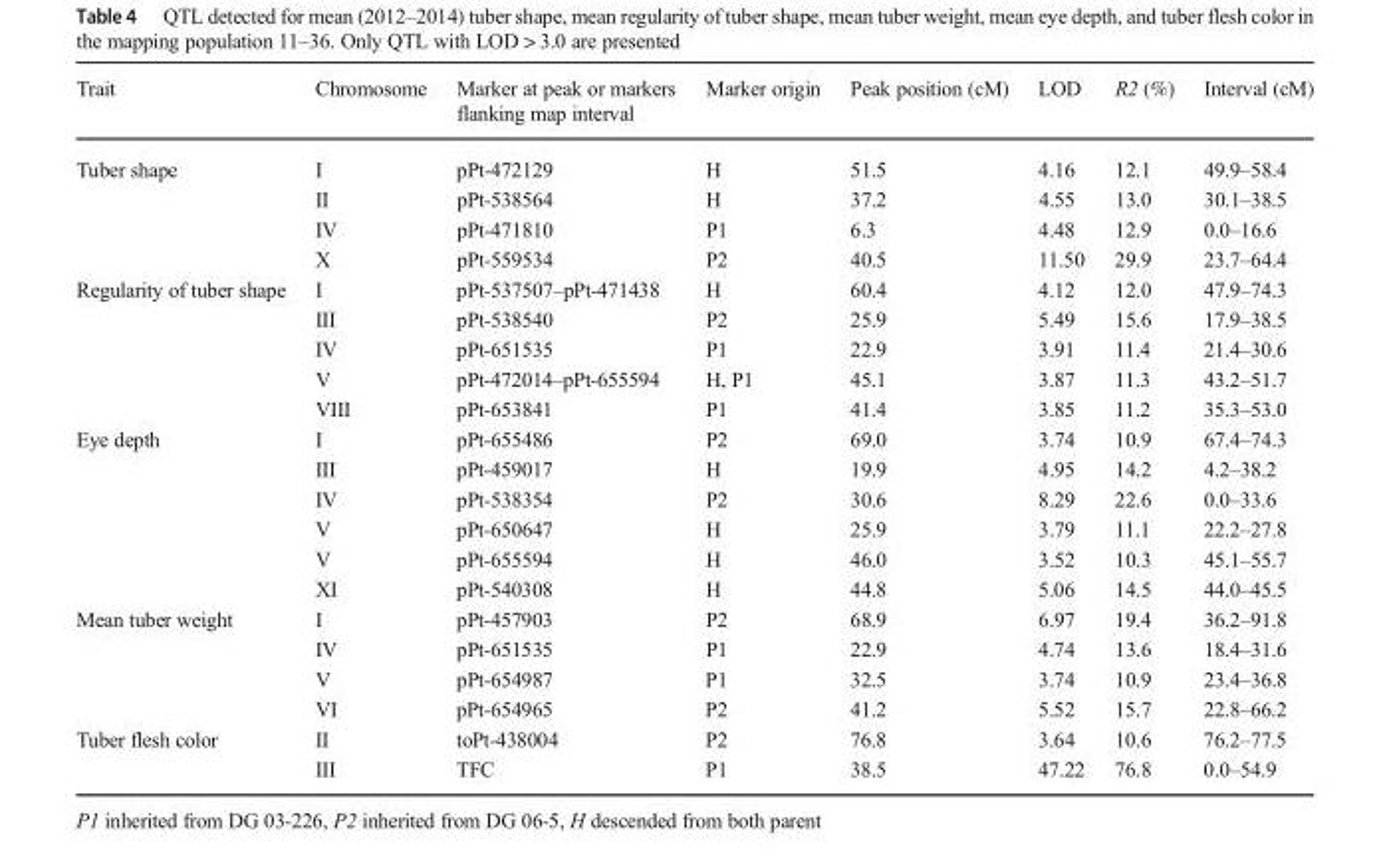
<table><thead><tr><td>Trait</td><td>Chromosome</td><td>Marker at peak or markers flanking map interval</td><td>Marker origin</td><td>Peak position (cM)</td><td>LOD</td><td>R2 (%)</td><td>Interval (cM)</td></tr></thead><tbody><tr><td rowspan="4">Tuber shape</td><td>I</td><td>pPt-472129</td><td>H</td><td>51.5</td><td>4.16</td><td>12.1</td><td>49.9–58.4</td></tr><tr><td>II</td><td>pPt-538564</td><td>H</td><td>37.2</td><td>4.55</td><td>13.0</td><td>30.1–38.5</td></tr><tr><td>IV</td><td>pPt-471810</td><td>P1</td><td>6.3</td><td>4.48</td><td>12.9</td><td>0.0–16.6</td></tr><tr><td>X</td><td>pPt-559534</td><td>P2</td><td>40.5</td><td>11.50</td><td>29.9</td><td>23.7–64.4</td></tr><tr><td rowspan="5">Regularity of tuber shape</td><td>I</td><td>pPt-537507–pPt-471438</td><td>H</td><td>60.4</td><td>4.12</td><td>12.0</td><td>47.9–74.3</td></tr><tr><td>III</td><td>pPt-538540</td><td>P2</td><td>25.9</td><td>5.49</td><td>15.6</td><td>17.9–38.5</td></tr><tr><td>IV</td><td>pPt-651535</td><td>P1</td><td>22.9</td><td>3.91</td><td>11.4</td><td>21.4–30.6</td></tr><tr><td>V</td><td>pPt-472014–pPt-655594</td><td>H, P1</td><td>45.1</td><td>3.87</td><td>11.3</td><td>43.2–51.7</td></tr><tr><td>VIII</td><td>pPt-653841</td><td>P1</td><td>41.4</td><td>3.85</td><td>11.2</td><td>35.3–53.0</td></tr><tr><td rowspan="6">Eye depth</td><td>I</td><td>pPt-655486</td><td>P2</td><td>69.0</td><td>3.74</td><td>10.9</td><td>67.4–74.3</td></tr><tr><td>III</td><td>pPt-459017</td><td>H</td><td>19.9</td><td>4.95</td><td>14.2</td><td>4.2–38.2</td></tr><tr><td>IV</td><td>pPt-538354</td><td>P2</td><td>30.6</td><td>8.29</td><td>22.6</td><td>0.0–33.6</td></tr><tr><td>V</td><td>pPt-650647</td><td>H</td><td>25.9</td><td>3.79</td><td>11.1</td><td>22.2–27.8</td></tr><tr><td>V</td><td>pPt-655594</td><td>H</td><td>46.0</td><td>3.52</td><td>10.3</td><td>45.1–55.7</td></tr><tr><td>XI</td><td>pPt-540308</td><td>H</td><td>44.8</td><td>5.06</td><td>14.5</td><td>44.0–45.5</td></tr><tr><td rowspan="4">Mean tuber weight</td><td>I</td><td>pPt-457903</td><td>P2</td><td>68.9</td><td>6.97</td><td>19.4</td><td>36.2–91.8</td></tr><tr><td>IV</td><td>pPt-651535</td><td>P1</td><td>22.9</td><td>4.74</td><td>13.6</td><td>18.4–31.6</td></tr><tr><td>V</td><td>pPt-654987</td><td>P1</td><td>32.5</td><td>3.74</td><td>10.9</td><td>23.4–36.8</td></tr><tr><td>VI</td><td>pPt-654965</td><td>P2</td><td>41.2</td><td>5.52</td><td>15.7</td><td>22.8–66.2</td></tr><tr><td rowspan="2">Tuber flesh color</td><td>II</td><td>toPt-438004</td><td>P2</td><td>76.8</td><td>3.64</td><td>10.6</td><td>76.2–77.5</td></tr><tr><td>III</td><td>TFC</td><td>P1</td><td>38.5</td><td>47.22</td><td>76.8</td><td>0.0–54.9</td></tr></tbody></table>